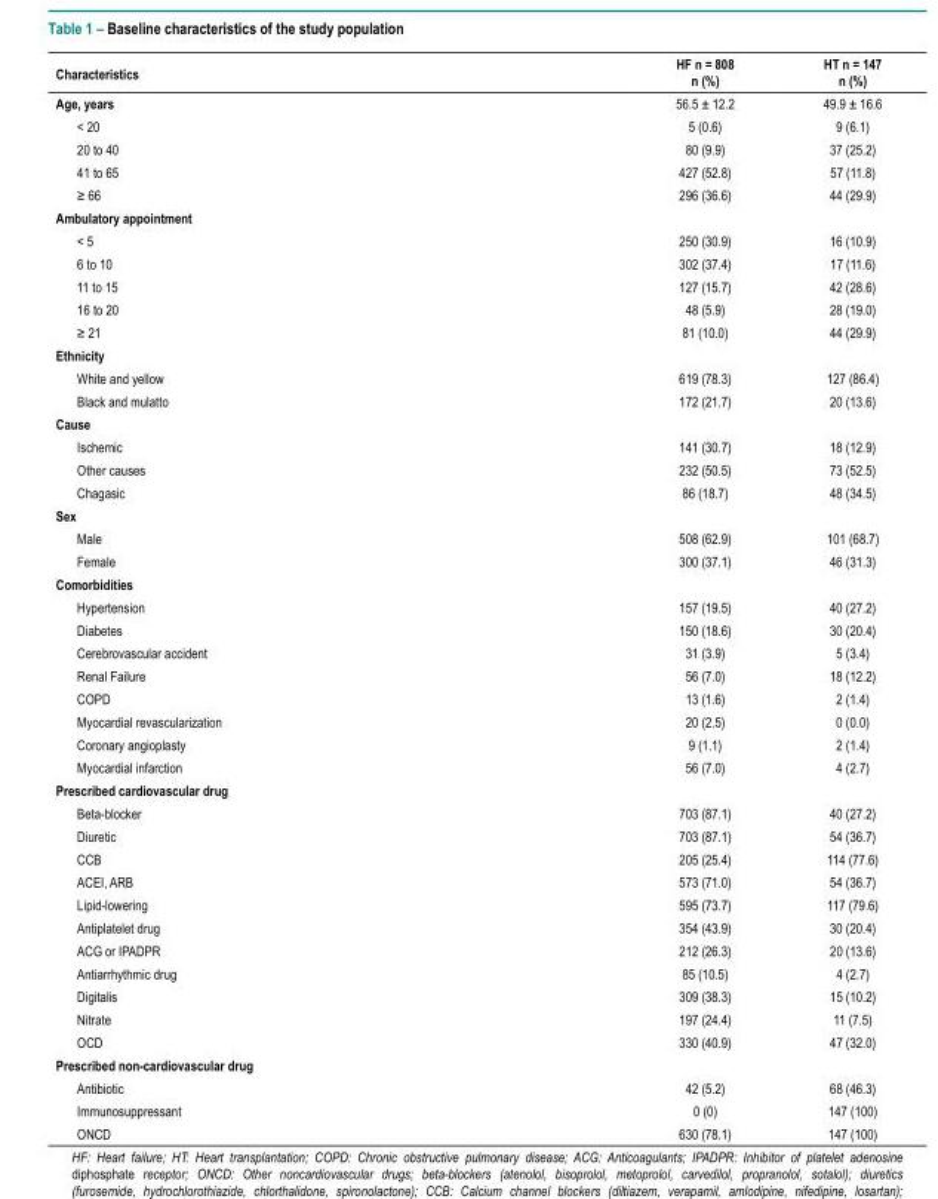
<table><thead><tr><td>Characteristics</td><td>HF n = 808 n (%)</td><td>HT n = 147 n (%)</td></tr></thead><tbody><tr><td>Age, years</td><td>56.5 ± 12.2</td><td>49.9 ± 16.6</td></tr><tr><td>&lt; 20</td><td>5 (0.6)</td><td>9 (6.1)</td></tr><tr><td>20 to 40</td><td>80 (9.9)</td><td>37 (25.2)</td></tr><tr><td>41 to 65</td><td>427 (52.8)</td><td>57 (11.8)</td></tr><tr><td>≥ 66</td><td>296 (36.6)</td><td>44 (29.9)</td></tr><tr><td colspan="3">Ambulatory appointment</td></tr><tr><td>&lt; 5</td><td>250 (30.9)</td><td>16 (10.9)</td></tr><tr><td>6 to 10</td><td>302 (37.4)</td><td>17 (11.6)</td></tr><tr><td>11 to 15</td><td>127 (15.7)</td><td>42 (28.6)</td></tr><tr><td>16 to 20</td><td>48 (5.9)</td><td>28 (19.0)</td></tr><tr><td>≥ 21</td><td>81 (10.0)</td><td>44 (29.9)</td></tr><tr><td colspan="3">Ethnicity</td></tr><tr><td>White and yellow</td><td>619 (78.3)</td><td>127 (86.4)</td></tr><tr><td>Black and mulatto</td><td>172 (21.7)</td><td>20 (13.6)</td></tr><tr><td colspan="3">Cause</td></tr><tr><td>Ischemic</td><td>141 (30.7)</td><td>18 (12.9)</td></tr><tr><td>Other causes</td><td>232 (50.5)</td><td>73 (52.5)</td></tr><tr><td>Chagasic</td><td>86 (18.7)</td><td>48 (34.5)</td></tr><tr><td colspan="3">Sex</td></tr><tr><td>Male</td><td>508 (62.9)</td><td>101 (68.7)</td></tr><tr><td>Female</td><td>300 (37.1)</td><td>46 (31.3)</td></tr><tr><td colspan="3">Comorbidities</td></tr><tr><td>Hypertension</td><td>157 (19.5)</td><td>40 (27.2)</td></tr><tr><td>Diabetes</td><td>150 (18.6)</td><td>30 (20.4)</td></tr><tr><td>Cerebrovascular accident</td><td>31 (3.9)</td><td>5 (3.4)</td></tr><tr><td>Renal Failure</td><td>56 (7.0)</td><td>18 (12.2)</td></tr><tr><td>COPD</td><td>13 (1.6)</td><td>2 (1.4)</td></tr><tr><td>Myocardial revascularization</td><td>20 (2.5)</td><td>0 (0.0)</td></tr><tr><td>Coronary angioplasty</td><td>9 (1.1)</td><td>2 (1.4)</td></tr><tr><td>Myocardial infarction</td><td>56 (7.0)</td><td>4 (2.7)</td></tr><tr><td colspan="3">Prescribed cardiovascular drug</td></tr><tr><td>Beta-blocker</td><td>703 (87.1)</td><td>40 (27.2)</td></tr><tr><td>Diuretic</td><td>703 (87.1)</td><td>54 (36.7)</td></tr><tr><td>CCB</td><td>205 (25.4)</td><td>114 (77.6)</td></tr><tr><td>ACEI, ARB</td><td>573 (71.0)</td><td>54 (36.7)</td></tr><tr><td>Lipid-lowering</td><td>595 (73.7)</td><td>117 (79.6)</td></tr><tr><td>Antiplatelet drug</td><td>354 (43.9)</td><td>30 (20.4)</td></tr><tr><td>ACG or IPADPR</td><td>212 (26.3)</td><td>20 (13.6)</td></tr><tr><td>Antiarrhythmic drug</td><td>85 (10.5)</td><td>4 (2.7)</td></tr><tr><td>Digitalis</td><td>309 (38.3)</td><td>15 (10.2)</td></tr><tr><td>Nitrate</td><td>197 (24.4)</td><td>11 (7.5)</td></tr><tr><td>OCD</td><td>330 (40.9)</td><td>47 (32.0)</td></tr><tr><td colspan="3">Prescribed non-cardiovascular drug</td></tr><tr><td>Antibiotic</td><td>42 (5.2)</td><td>68 (46.3)</td></tr><tr><td>Immunosuppressant</td><td>0 (0)</td><td>147 (100)</td></tr><tr><td>ONCD</td><td>630 (78.1)</td><td>147 (100)</td></tr></tbody></table>